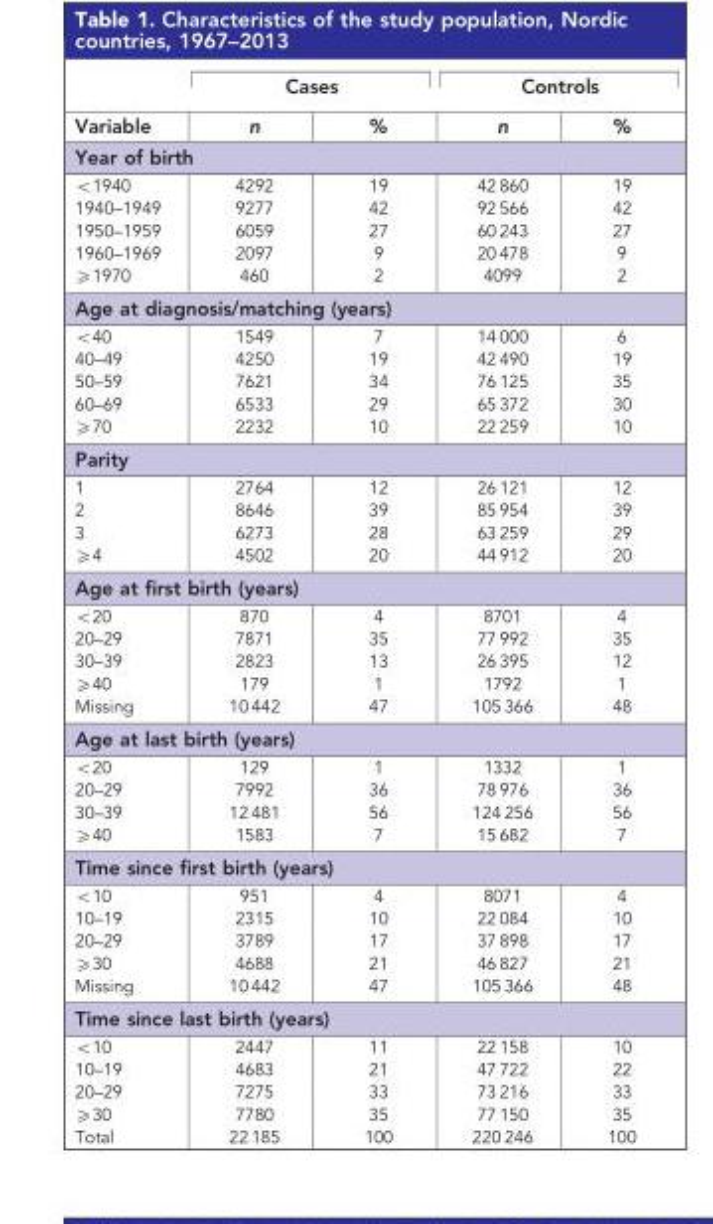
<table><thead><tr><td rowspan="2">Variable</td><td colspan="2">Cases</td><td colspan="2">Controls</td></tr><tr><td>n</td><td>%</td><td>n</td><td>%</td></tr></thead><tbody><tr><td colspan="5">Year of birth</td></tr><tr><td>&lt;1940</td><td>4292</td><td>19</td><td>42 860</td><td>19</td></tr><tr><td>1940–1949</td><td>9277</td><td>42</td><td>92 566</td><td>42</td></tr><tr><td>1950–1959</td><td>6059</td><td>27</td><td>60 243</td><td>27</td></tr><tr><td>1960–1969</td><td>2097</td><td>9</td><td>20 478</td><td>9</td></tr><tr><td>⩾1970</td><td>460</td><td>2</td><td>4099</td><td>2</td></tr><tr><td colspan="5">Age at diagnosis/matching (years)</td></tr><tr><td>&lt;40</td><td>1549</td><td>7</td><td>14 000</td><td>6</td></tr><tr><td>40–49</td><td>4250</td><td>19</td><td>42 490</td><td>19</td></tr><tr><td>50–59</td><td>7621</td><td>34</td><td>76 125</td><td>35</td></tr><tr><td>60–69</td><td>6533</td><td>29</td><td>65 372</td><td>30</td></tr><tr><td>⩾70</td><td>2232</td><td>10</td><td>22 259</td><td>10</td></tr><tr><td colspan="5">Parity</td></tr><tr><td>1</td><td>2764</td><td>12</td><td>26 121</td><td>12</td></tr><tr><td>2</td><td>8646</td><td>39</td><td>85 954</td><td>39</td></tr><tr><td>3</td><td>6273</td><td>28</td><td>63 259</td><td>29</td></tr><tr><td>⩾4</td><td>4502</td><td>20</td><td>44 912</td><td>20</td></tr><tr><td colspan="5">Age at first birth (years)</td></tr><tr><td>&lt;20</td><td>870</td><td>4</td><td>8701</td><td>4</td></tr><tr><td>20–29</td><td>7871</td><td>35</td><td>77 992</td><td>35</td></tr><tr><td>30–39</td><td>2823</td><td>13</td><td>26 395</td><td>12</td></tr><tr><td>⩾40</td><td>179</td><td>1</td><td>1792</td><td>1</td></tr><tr><td>Missing</td><td>10 442</td><td>47</td><td>105 366</td><td>48</td></tr><tr><td colspan="5">Age at last birth (years)</td></tr><tr><td>&lt;20</td><td>129</td><td>1</td><td>1332</td><td>1</td></tr><tr><td>20–29</td><td>7992</td><td>36</td><td>78 976</td><td>36</td></tr><tr><td>30–39</td><td>12 481</td><td>56</td><td>124 256</td><td>56</td></tr><tr><td>⩾40</td><td>1583</td><td>7</td><td>15 682</td><td>7</td></tr><tr><td colspan="5">Time since first birth (years)</td></tr><tr><td>&lt;10</td><td>951</td><td>4</td><td>8071</td><td>4</td></tr><tr><td>10–19</td><td>2315</td><td>10</td><td>22 084</td><td>10</td></tr><tr><td>20–29</td><td>3789</td><td>17</td><td>37 898</td><td>17</td></tr><tr><td>⩾30</td><td>4688</td><td>21</td><td>46 827</td><td>21</td></tr><tr><td>Missing</td><td>10 442</td><td>47</td><td>105 366</td><td>48</td></tr><tr><td colspan="5">Time since last birth (years)</td></tr><tr><td>&lt;10</td><td>2447</td><td>11</td><td>22 158</td><td>10</td></tr><tr><td>10–19</td><td>4683</td><td>21</td><td>47 722</td><td>22</td></tr><tr><td>20–29</td><td>7275</td><td>33</td><td>73 216</td><td>33</td></tr><tr><td>⩾30</td><td>7780</td><td>35</td><td>77 150</td><td>35</td></tr><tr><td>Total</td><td>22 185</td><td>100</td><td>220 246</td><td>100</td></tr></tbody></table>